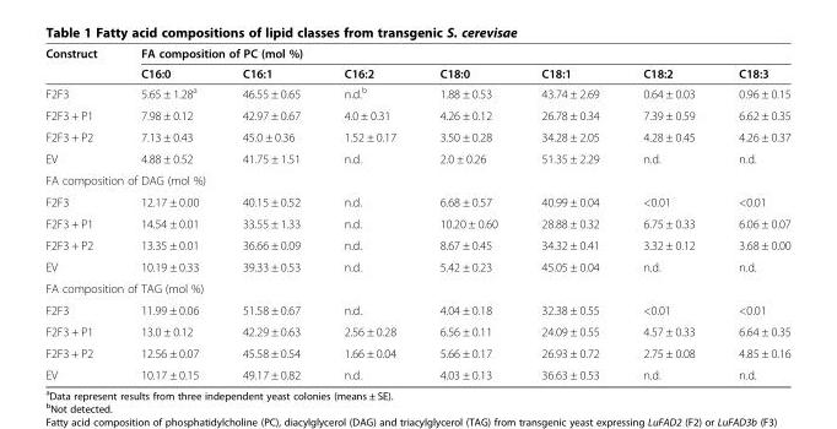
<table><thead><tr><td rowspan="2">Construct</td><td colspan="7">FA composition of PC (mol %)</td></tr><tr><td>C16:0</td><td>C16:1</td><td>C16:2</td><td>C18:0</td><td>C18:1</td><td>C18:2</td><td>C18:3</td></tr></thead><tbody><tr><td>F2F3</td><td>5.65 ± 1.28<sup>a</sup></td><td>46.55 ± 0.65</td><td>n.d.<sup>b</sup></td><td>1.88 ± 0.53</td><td>43.74 ± 2.69</td><td>0.64 ± 0.03</td><td>0.96 ± 0.15</td></tr><tr><td>F2F3 + P1</td><td>7.98 ± 0.12</td><td>42.97 ± 0.67</td><td>4.0 ± 0.31</td><td>4.26 ± 0.12</td><td>26.78 ± 0.34</td><td>7.39 ± 0.59</td><td>6.62 ± 0.35</td></tr><tr><td>F2F3 + P2</td><td>7.13 ± 0.43</td><td>45.0 ± 0.36</td><td>1.52 ± 0.17</td><td>3.50 ± 0.28</td><td>34.28 ± 2.05</td><td>4.28 ± 0.45</td><td>4.26 ± 0.37</td></tr><tr><td>EV</td><td>4.88 ± 0.52</td><td>41.75 ± 1.51</td><td>n.d.</td><td>2.0 ± 0.26</td><td>51.35 ± 2.29</td><td>n.d.</td><td>n.d.</td></tr><tr><td colspan="8">FA composition of DAG (mol %)</td></tr><tr><td>F2F3</td><td>12.17 ± 0.00</td><td>40.15 ± 0.52</td><td>n.d.</td><td>6.68 ± 0.57</td><td>40.99 ± 0.04</td><td>&lt;0.01</td><td>&lt;0.01</td></tr><tr><td>F2F3 + P1</td><td>14.54 ± 0.01</td><td>33.55 ± 1.33</td><td>n.d.</td><td>10.20 ± 0.60</td><td>28.88 ± 0.32</td><td>6.75 ± 0.33</td><td>6.06 ± 0.07</td></tr><tr><td>F2F3 + P2</td><td>13.35 ± 0.01</td><td>36.66 ± 0.09</td><td>n.d.</td><td>8.67 ± 0.45</td><td>34.32 ± 0.41</td><td>3.32 ± 0.12</td><td>3.68 ± 0.00</td></tr><tr><td>EV</td><td>10.19 ± 0.33</td><td>39.33 ± 0.53</td><td>n.d.</td><td>5.42 ± 0.23</td><td>45.05 ± 0.04</td><td>n.d.</td><td>n.d.</td></tr><tr><td colspan="8">FA composition of TAG (mol %)</td></tr><tr><td>F2F3</td><td>11.99 ± 0.06</td><td>51.58 ± 0.67</td><td>n.d.</td><td>4.04 ± 0.18</td><td>32.38 ± 0.55</td><td>&lt;0.01</td><td>&lt;0.01</td></tr><tr><td>F2F3 + P1</td><td>13.0 ± 0.12</td><td>42.29 ± 0.63</td><td>2.56 ± 0.28</td><td>6.56 ± 0.11</td><td>24.09 ± 0.55</td><td>4.57 ± 0.33</td><td>6.64 ± 0.35</td></tr><tr><td>F2F3 + P2</td><td>12.56 ± 0.07</td><td>45.58 ± 0.54</td><td>1.66 ± 0.04</td><td>5.66 ± 0.17</td><td>26.93 ± 0.72</td><td>2.75 ± 0.08</td><td>4.85 ± 0.16</td></tr><tr><td>EV</td><td>10.17 ± 0.15</td><td>49.17 ± 0.82</td><td>n.d.</td><td>4.03 ± 0.13</td><td>36.63 ± 0.53</td><td>n.d.</td><td>n.d.</td></tr></tbody></table>